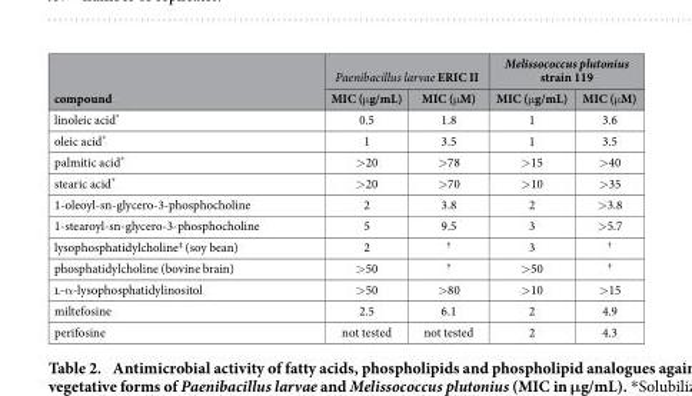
<table><thead><tr><td rowspan="2">compound</td><td colspan="2">Paenibacillus larvae ERIC II</td><td colspan="2">Melissococcus plutonius strain 119</td></tr><tr><td>MIC (μ g/mL)</td><td>MIC (μ M)</td><td>MIC (μ g/mL)</td><td>MIC (μ M)</td></tr></thead><tbody><tr><td>linoleic acid*</td><td>0.5</td><td>1.8</td><td>1</td><td>3.6</td></tr><tr><td>oleic acid*</td><td>1</td><td>3.5</td><td>1</td><td>3.5</td></tr><tr><td>palmitic acid*</td><td>&gt; 20</td><td>&gt; 78</td><td>&gt; 15</td><td>&gt; 40</td></tr><tr><td>stearic acid*</td><td>&gt; 20</td><td>&gt; 70</td><td>&gt; 10</td><td>&gt; 35</td></tr><tr><td>1-oleoyl-sn-glycero-3-phosphocholine</td><td>2</td><td>3.8</td><td>2</td><td>&gt; 3.8</td></tr><tr><td>1-stearoyl-sn-glycero-3-phosphocholine</td><td>5</td><td>9.5</td><td>3</td><td>&gt; 5.7</td></tr><tr><td>lysophosphatidylcholine‡ (soy bean)</td><td>2</td><td>†</td><td>3</td><td>†</td></tr><tr><td>phosphatidylcholine (bovine brain)</td><td>&gt; 50</td><td>†</td><td>&gt; 50</td><td>†</td></tr><tr><td>l-α -lysophosphatidylinositol</td><td>&gt; 50</td><td>&gt; 80</td><td>&gt; 10</td><td>&gt; 15</td></tr><tr><td>miltefosine</td><td>2.5</td><td>6.1</td><td>2</td><td>4.9</td></tr><tr><td>perifosine</td><td>not tested</td><td>not tested</td><td>2</td><td>4.3</td></tr></tbody></table>